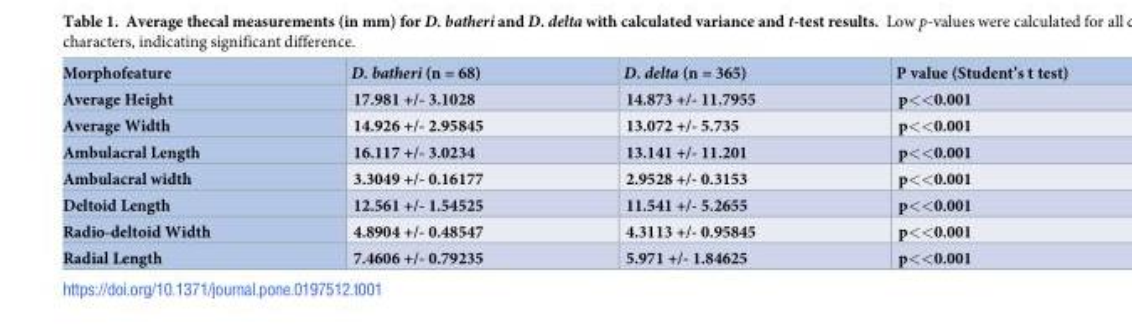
<table><thead><tr><td>Morphofeature</td><td>D. batheri (n = 68)</td><td>D. delta (n = 365)</td><td>P value (Student’s t test)</td></tr></thead><tbody><tr><td>Average Height</td><td>17.981 +/- 3.1028</td><td>14.873 +/- 11.7955</td><td>p&lt;&lt;0.001</td></tr><tr><td>Average Width</td><td>14.926 +/- 2.95845</td><td>13.072 +/- 5.735</td><td>p&lt;&lt;0.001</td></tr><tr><td>Ambulacral Length</td><td>16.117 +/- 3.0234</td><td>13.141 +/- 11.201</td><td>p&lt;&lt;0.001</td></tr><tr><td>Ambulacral width</td><td>3.3049 +/- 0.16177</td><td>2.9528 +/- 0.3153</td><td>p&lt;&lt;0.001</td></tr><tr><td>Deltoid Length</td><td>12.561 +/- 1.54525</td><td>11.541 +/- 5.2655</td><td>p&lt;&lt;0.001</td></tr><tr><td>Radio-deltoid Width</td><td>4.8904 +/- 0.48547</td><td>4.3113 +/- 0.95845</td><td>p&lt;&lt;0.001</td></tr><tr><td>Radial Length</td><td>7.4606 +/- 0.79235</td><td>5.971 +/- 1.84625</td><td>p&lt;&lt;0.001</td></tr></tbody></table>